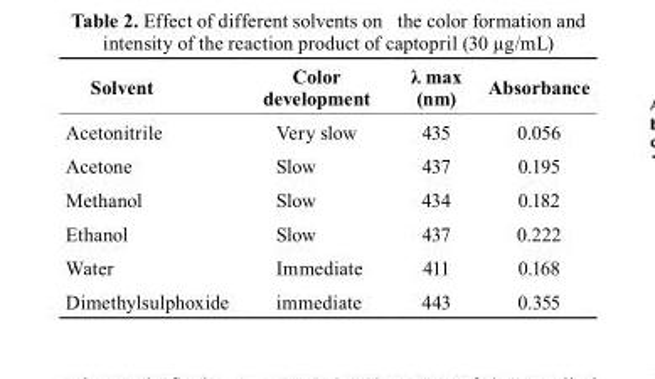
<table><thead><tr><td>solvent</td><td>color development</td><td>λ max (nm)</td><td>Absorbance</td></tr></thead><tbody><tr><td>Acetonitrile</td><td>Very slow</td><td>435</td><td>0.056</td></tr><tr><td>Acetone</td><td>Slow</td><td>437</td><td>0.195</td></tr><tr><td>Methanol</td><td>Slow</td><td>434</td><td>0.182</td></tr><tr><td>Ethanol</td><td>Slow</td><td>437</td><td>0.222</td></tr><tr><td>Water</td><td>Immediate</td><td>411</td><td>0.168</td></tr><tr><td>Dimethylsulphoxide</td><td>immediate</td><td>443</td><td>0.355</td></tr></tbody></table>